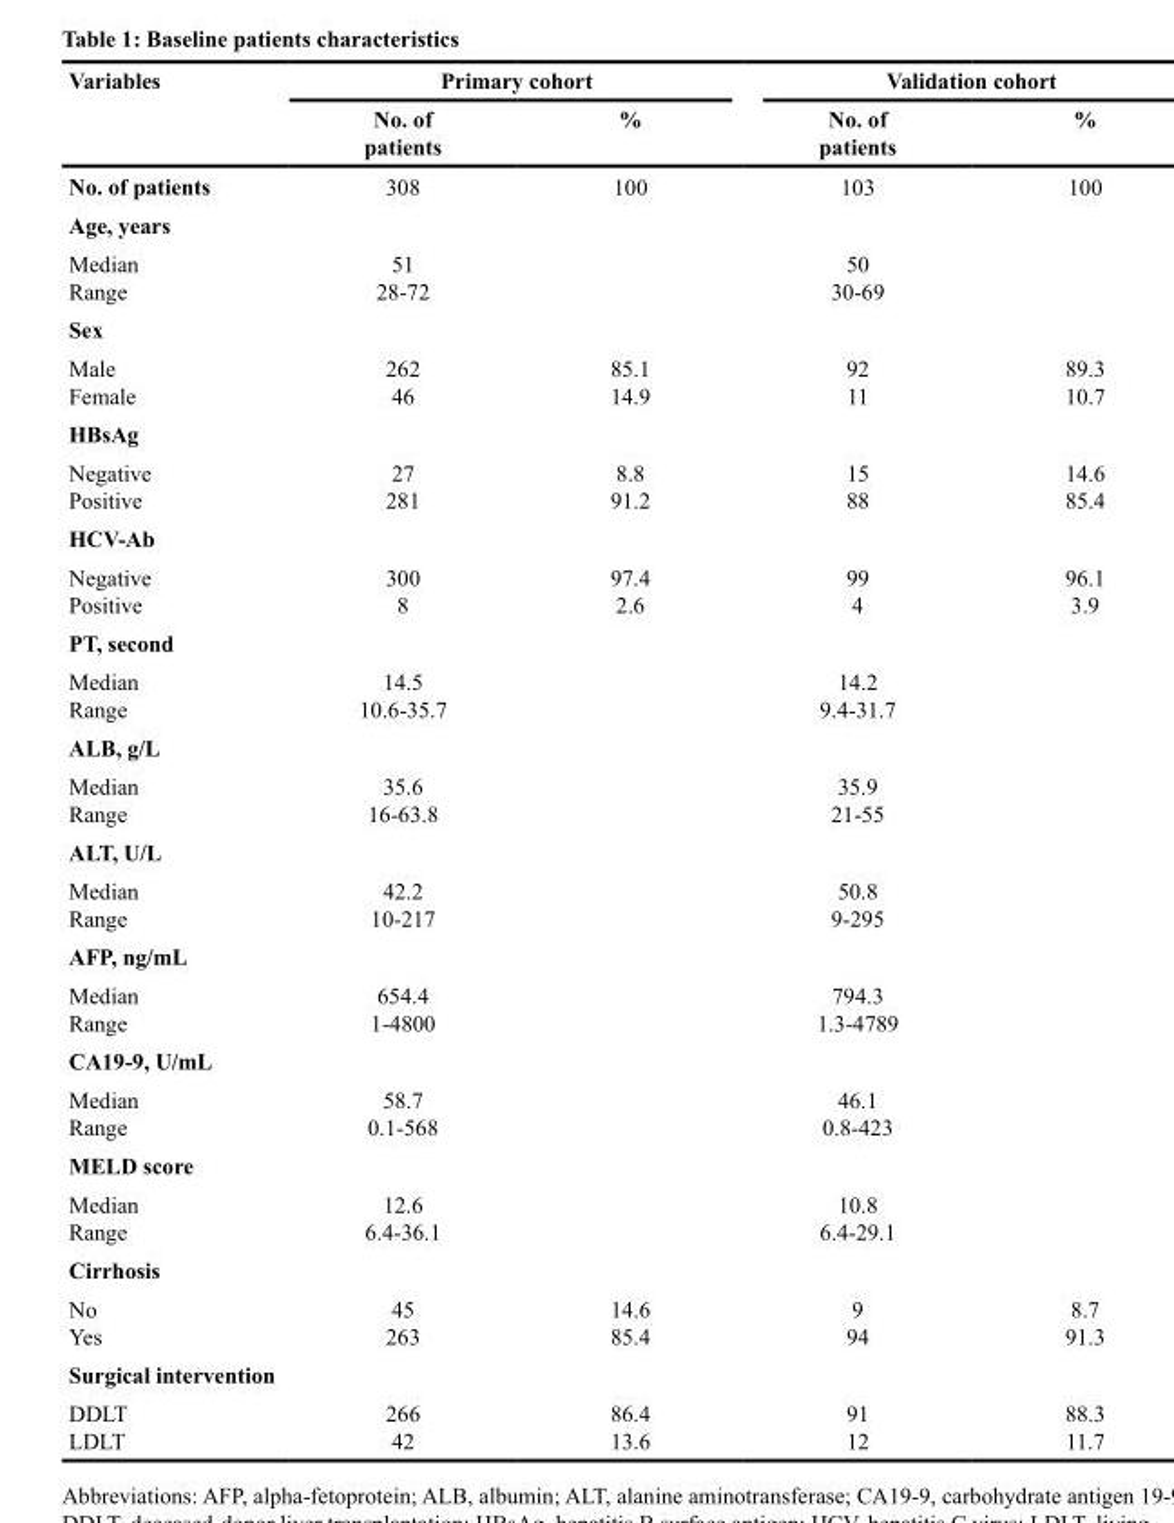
<table><thead><tr><td rowspan="2">Variables</td><td colspan="2">Primary cohort</td><td colspan="2">Validation cohort</td></tr><tr><td>No. of patients</td><td>%</td><td>No. of patients</td><td>%</td></tr></thead><tbody><tr><td>No. of patients</td><td>308</td><td>100</td><td>103</td><td>100</td></tr><tr><td colspan="5">Age, years</td></tr><tr><td>Median Range</td><td>51 28-72</td><td></td><td>50 30-69</td><td></td></tr><tr><td colspan="5">Sex</td></tr><tr><td>Male Female</td><td>262 46</td><td>85.1 14.9</td><td>92 11</td><td>89.3 10.7</td></tr><tr><td colspan="5">HBsAg</td></tr><tr><td>Negative Positive</td><td>27 281</td><td>8.8 91.2</td><td>15 88</td><td>14.6 85.4</td></tr><tr><td colspan="5">HCV-Ab</td></tr><tr><td>Negative Positive</td><td>300 8</td><td>97.4 2.6</td><td>99 4</td><td>96.1 3.9</td></tr><tr><td colspan="5">PT, second</td></tr><tr><td>Median Range</td><td>14.5 10.6-35.7</td><td></td><td>14.2 9.4-31.7</td><td></td></tr><tr><td colspan="5">ALB, g/L</td></tr><tr><td>Median Range</td><td>35.6 16-63.8</td><td></td><td>35.9 21-55</td><td></td></tr><tr><td colspan="5">ALT, U/L</td></tr><tr><td>Median Range</td><td>42.2 10-217</td><td></td><td>50.8 9-295</td><td></td></tr><tr><td colspan="5">AFP, ng/mL</td></tr><tr><td>Median Range</td><td>654.4 1-4800</td><td></td><td>794.3 1.3-4789</td><td></td></tr><tr><td colspan="5">CA19-9, U/mL</td></tr><tr><td>Median Range</td><td>58.7 0.1-568</td><td></td><td>46.1 0.8-423</td><td></td></tr><tr><td colspan="5">MELD score</td></tr><tr><td>Median Range</td><td>12.6 6.4-36.1</td><td></td><td>10.8 6.4-29.1</td><td></td></tr><tr><td colspan="5">Cirrhosis</td></tr><tr><td>No Yes</td><td>45 263</td><td>14.6 85.4</td><td>9 94</td><td>8.7 91.3</td></tr><tr><td colspan="5">Surgical intervention</td></tr><tr><td>DDLT LDLT</td><td>266 42</td><td>86.4 13.6</td><td>91 12</td><td>88.3 11.7</td></tr></tbody></table>